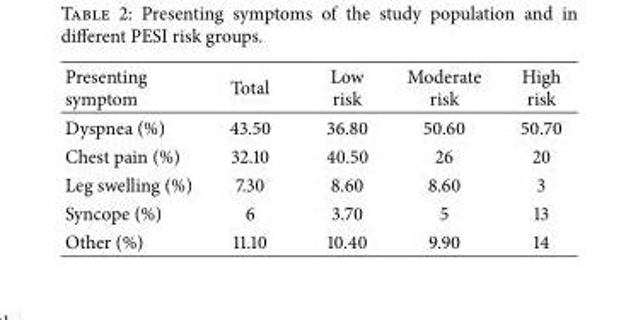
<table><thead><tr><td>Presenting symptom</td><td>Total</td><td>Low risk</td><td>Moderate risk</td><td>High risk</td></tr></thead><tbody><tr><td>Dyspnea (%)</td><td>43.50</td><td>36.80</td><td>50.60</td><td>50.70</td></tr><tr><td>Chest pain (%)</td><td>32.10</td><td>40.50</td><td>26</td><td>20</td></tr><tr><td>Leg swelling (%)</td><td>7.30</td><td>8.60</td><td>8.60</td><td>3</td></tr><tr><td>Syncope (%)</td><td>6</td><td>3.70</td><td>5</td><td>13</td></tr><tr><td>Other (%)</td><td>11.10</td><td>10.40</td><td>9.90</td><td>14</td></tr></tbody></table>